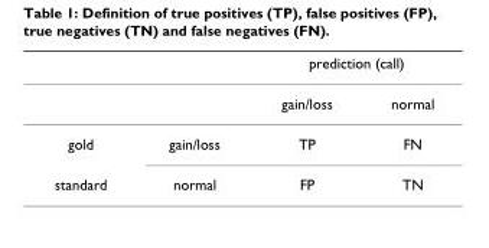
<table><thead><tr><td rowspan="2"></td><td rowspan="2"></td><td colspan="2">prediction (call)</td></tr><tr><td>gain/loss</td><td>normal</td></tr></thead><tbody><tr><td>gold</td><td>gain/loss</td><td>TP</td><td>FN</td></tr><tr><td>standard</td><td>normal</td><td>FP</td><td>TN</td></tr></tbody></table>